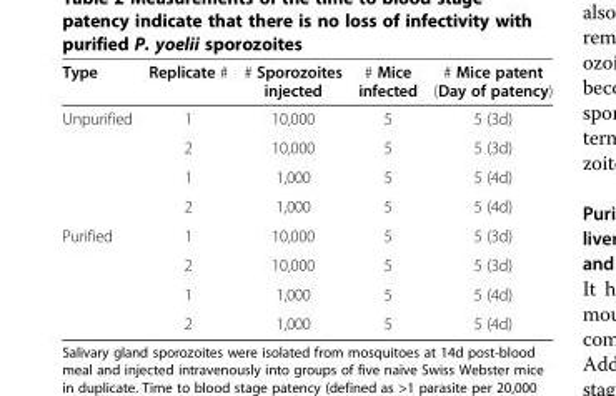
<table><thead><tr><td>Type</td><td>Replicate #</td><td># Sporozoites injected</td><td># Mice infected</td><td># Mice patent (Day of patency)</td></tr></thead><tbody><tr><td rowspan="4">Unpurified</td><td>1</td><td>10,000</td><td>5</td><td>5 (3d)</td></tr><tr><td>2</td><td>10,000</td><td>5</td><td>5 (3d)</td></tr><tr><td>1</td><td>1,000</td><td>5</td><td>5 (4d)</td></tr><tr><td>2</td><td>1,000</td><td>5</td><td>5 (4d)</td></tr><tr><td rowspan="4">Purified</td><td>1</td><td>10,000</td><td>5</td><td>5 (3d)</td></tr><tr><td>2</td><td>10,000</td><td>5</td><td>5 (3d)</td></tr><tr><td>1</td><td>1,000</td><td>5</td><td>5 (4d)</td></tr><tr><td>2</td><td>1,000</td><td>5</td><td>5 (4d)</td></tr></tbody></table>